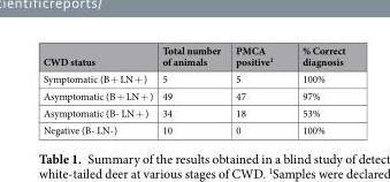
<table><thead><tr><td>CWD status</td><td>Total number of animals</td><td>PMCA positive<sup>1</sup></td><td>% Correct diagnosis</td></tr></thead><tbody><tr><td>Symptomatic (B + LN + )</td><td>5</td><td>5</td><td>100%</td></tr><tr><td>Asymptomatic (B + LN + )</td><td>49</td><td>47</td><td>97%</td></tr><tr><td>Asymptomatic (B- LN + )</td><td>34</td><td>18</td><td>53%</td></tr><tr><td>Negative (B- LN-)</td><td>10</td><td>0</td><td>100%</td></tr></tbody></table>